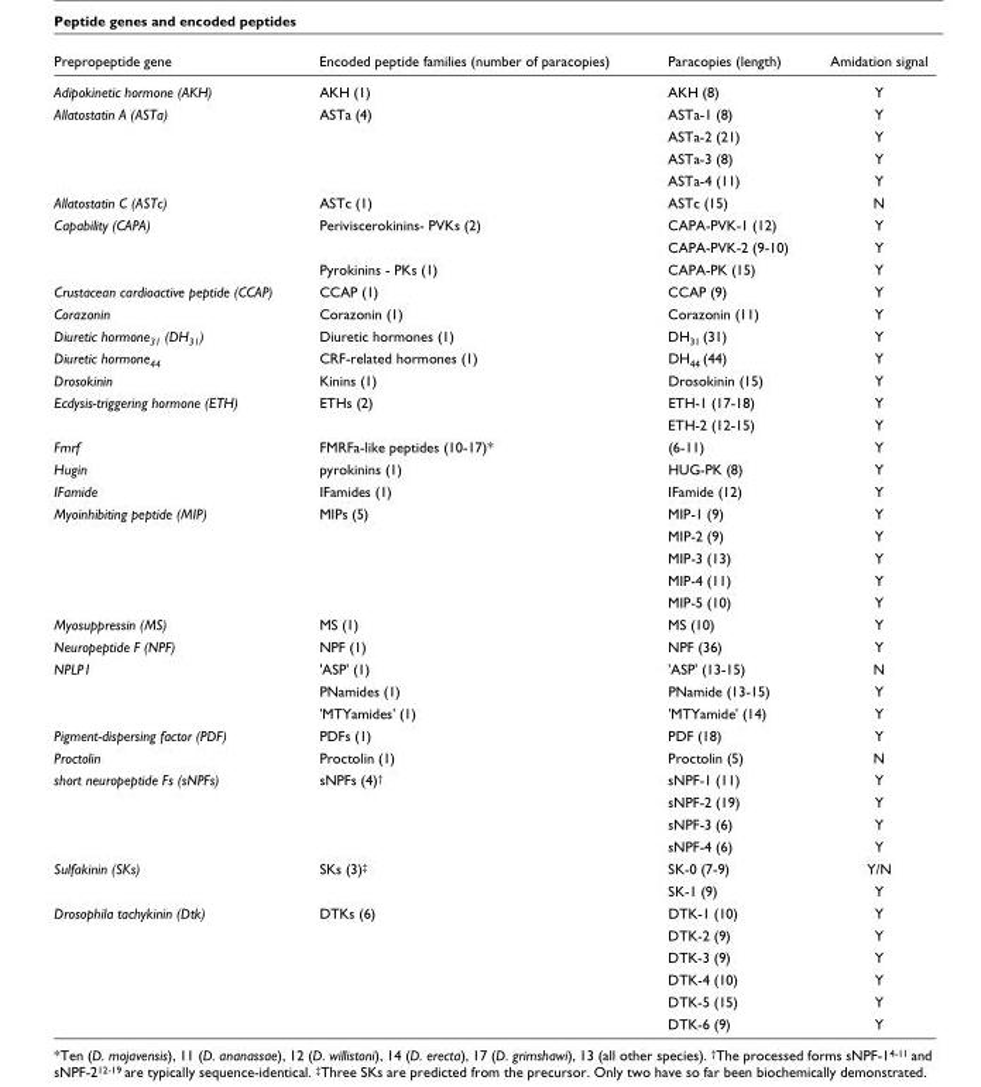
<table><thead><tr><td>Prepropeptide gene</td><td>Encoded peptide families (number of paracopies)</td><td>Paracopies (length)</td><td>Amidation signal</td></tr></thead><tbody><tr><td>Adipokinetic hormone (AKH)</td><td>AKH (1)</td><td>AKH (8)</td><td>Y</td></tr><tr><td rowspan="4">Allatostatin A (ASTa)</td><td>ASTa (4)</td><td>ASTa-1 (8)</td><td>Y</td></tr><tr><td></td><td>ASTa-2 (21)</td><td>Y</td></tr><tr><td></td><td>ASTa-3 (8)</td><td>Y</td></tr><tr><td></td><td>ASTa-4 (11)</td><td>Y</td></tr><tr><td>Allatostatin C (ASTc)</td><td>ASTc (1)</td><td>ASTc (15)</td><td>N</td></tr><tr><td rowspan="3">Capability (CAPA)</td><td>Periviscerokinins- PVKs (2)</td><td>CAPA-PVK-1 (12)</td><td>Y</td></tr><tr><td></td><td>CAPA-PVK-2 (9-10)</td><td>Y</td></tr><tr><td>Pyrokinins - PKs (1)</td><td>CAPA-PK (15)</td><td>Y</td></tr><tr><td>Crustacean cardioactive peptide (CCAP)</td><td>CCAP (1)</td><td>CCAP (9)</td><td>Y</td></tr><tr><td>Corazonin</td><td>Corazonin (1)</td><td>Corazonin (11)</td><td>Y</td></tr><tr><td>Diuretic hormone<sub>31</sub> (DH<sub>31</sub>)</td><td>Diuretic hormones (1)</td><td>DH<sub>31</sub> (31)</td><td>Y</td></tr><tr><td>Diuretic hormone<sub>44</sub></td><td>CRF-related hormones (1)</td><td>DH<sub>44</sub> (44)</td><td>Y</td></tr><tr><td>Drosokinin</td><td>Kinins (1)</td><td>Drosokinin (15)</td><td>Y</td></tr><tr><td rowspan="2">Ecdysis-triggering hormone (ETH)</td><td>ETHs (2)</td><td>ETH-1 (17-18)</td><td>Y</td></tr><tr><td></td><td>ETH-2 (12-15)</td><td>Y</td></tr><tr><td>Fmrf</td><td>FMRFa-like peptides (10-17)*</td><td>(6-11)</td><td>Y</td></tr><tr><td>Hugin</td><td>pyrokinins (1)</td><td>HUG-PK (8)</td><td>Y</td></tr><tr><td>IFamide</td><td>IFamides (1)</td><td>IFamide (12)</td><td>Y</td></tr><tr><td rowspan="5">Myoinhibiting peptide (MIP)</td><td>MIPs (5)</td><td>MIP-1 (9)</td><td>Y</td></tr><tr><td></td><td>MIP-2 (9)</td><td>Y</td></tr><tr><td></td><td>MIP-3 (13)</td><td>Y</td></tr><tr><td></td><td>MIP-4 (11)</td><td>Y</td></tr><tr><td></td><td>MIP-5 (10)</td><td>Y</td></tr><tr><td>Myosuppressin (MS)</td><td>MS (1)</td><td>MS (10)</td><td>Y</td></tr><tr><td>Neuropeptide F (NPF)</td><td>NPF (1)</td><td>NPF (36)</td><td>Y</td></tr><tr><td rowspan="3">NPLP1</td><td>&#x27;ASP&#x27; (1)</td><td>&#x27;ASP&#x27; (13-15)</td><td>N</td></tr><tr><td>PNamides (1)</td><td>PNamide (13-15)</td><td>Y</td></tr><tr><td>&#x27;MTYamides&#x27; (1)</td><td>&#x27;MTYamide&#x27; (14)</td><td>Y</td></tr><tr><td>Pigment-dispersing factor (PDF)</td><td>PDFs (1)</td><td>PDF (18)</td><td>Y</td></tr><tr><td>Proctolin</td><td>Proctolin (1)</td><td>Proctolin (5)</td><td>N</td></tr><tr><td rowspan="4">short neuropeptide Fs (sNPFs)</td><td>sNPFs (4)<sup>†</sup></td><td>sNPF-1 (11)</td><td>Y</td></tr><tr><td></td><td>sNPF-2 (19)</td><td>Y</td></tr><tr><td></td><td>sNPF-3 (6)</td><td>Y</td></tr><tr><td></td><td>sNPF-4 (6)</td><td>Y</td></tr><tr><td rowspan="2">Sulfakinin (SKs)</td><td>SKs (3)<sup>‡</sup></td><td>SK-0 (7-9)</td><td>Y/N</td></tr><tr><td></td><td>SK-1 (9)</td><td>Y</td></tr><tr><td rowspan="6">Drosophila tachykinin (Dtk)</td><td>DTKs (6)</td><td>DTK-1 (10)</td><td>Y</td></tr><tr><td></td><td>DTK-2 (9)</td><td>Y</td></tr><tr><td></td><td>DTK-3 (9)</td><td>Y</td></tr><tr><td></td><td>DTK-4 (10)</td><td>Y</td></tr><tr><td></td><td>DTK-5 (15)</td><td>Y</td></tr><tr><td></td><td>DTK-6 (9)</td><td>Y</td></tr></tbody></table>